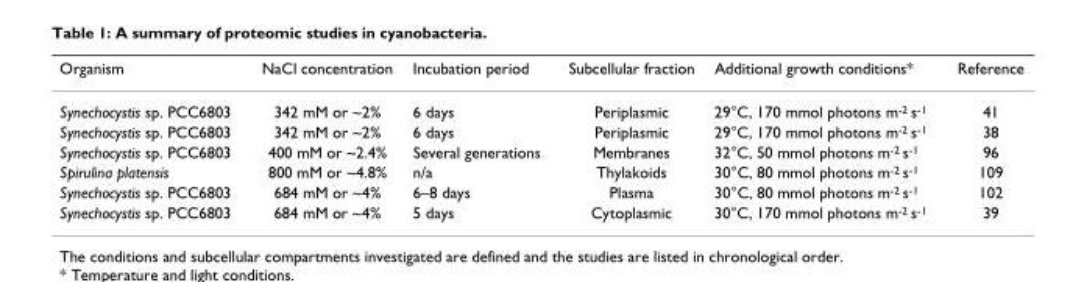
<table><thead><tr><td>Organism</td><td>NaCl concentration</td><td>Incubation period</td><td>Subcellular fraction</td><td>Additional growth conditions*</td><td>Reference</td></tr></thead><tbody><tr><td>Synechocystis sp. PCC6803</td><td>342 mM or ~2%</td><td>6 days</td><td>Periplasmic</td><td>29°C, 170 mmol photons m<sup>-2</sup> s<sup>-1</sup></td><td>41</td></tr><tr><td>Synechocystis sp. PCC6803</td><td>342 mM or ~2%</td><td>6 days</td><td>Periplasmic</td><td>29°C, 170 mmol photons m<sup>-2</sup> s<sup>-1</sup></td><td>38</td></tr><tr><td>Synechocystis sp. PCC6803</td><td>400 mM or ~2.4%</td><td>Several generations</td><td>Membranes</td><td>32°C, 50 mmol photons m<sup>-2</sup> s<sup>-1</sup></td><td>96</td></tr><tr><td>Spirulina platensis</td><td>800 mM or ~4.8%</td><td>n/a</td><td>Thylakoids</td><td>30°C, 80 mmol photons m<sup>-2</sup> s<sup>-1</sup></td><td>109</td></tr><tr><td>Synechocystis sp. PCC6803</td><td>684 mM or ~4%</td><td>6–8 days</td><td>Plasma</td><td>30°C, 80 mmol photons m<sup>-2</sup> s<sup>-1</sup></td><td>102</td></tr><tr><td>Synechocystis sp. PCC6803</td><td>684 mM or ~4%</td><td>5 days</td><td>Cytoplasmic</td><td>30°C, 170 mmol photons m<sup>-2</sup> s<sup>-1</sup></td><td>39</td></tr></tbody></table>